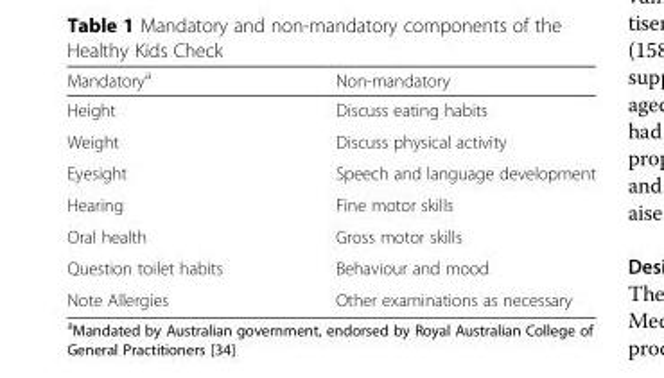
<table><thead><tr><td>Mandatory<sup>a</sup></td><td>Non-mandatory</td></tr></thead><tbody><tr><td>Height</td><td>Discuss eating habits</td></tr><tr><td>Weight</td><td>Discuss physical activity</td></tr><tr><td>Eyesight</td><td>Speech and language development</td></tr><tr><td>Hearing</td><td>Fine motor skills</td></tr><tr><td>Oral health</td><td>Gross motor skills</td></tr><tr><td>Question toilet habits</td><td>Behaviour and mood</td></tr><tr><td>Note Allergies</td><td>Other examinations as necessary</td></tr></tbody></table>